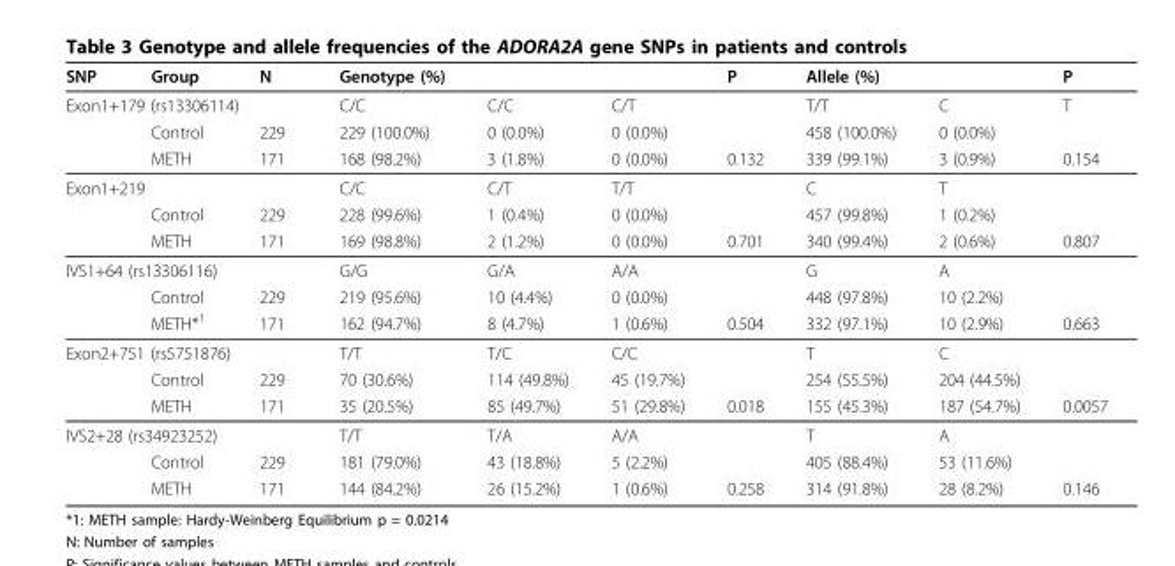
<table><thead><tr><td>SNP</td><td>Group</td><td>N</td><td>Genotype (%)</td><td></td><td></td><td>P</td><td>Allele (%)</td><td></td><td>P</td></tr></thead><tbody><tr><td colspan="3">Exon1+179 (rs13306114)</td><td>C/C</td><td>C/C</td><td>C/T</td><td></td><td>T/T</td><td>C</td><td>T</td></tr><tr><td></td><td>Control</td><td>229</td><td>229 (100.0%)</td><td>0 (0.0%)</td><td>0 (0.0%)</td><td></td><td>458 (100.0%)</td><td>0 (0.0%)</td><td></td></tr><tr><td></td><td>METH</td><td>171</td><td>168 (98.2%)</td><td>3 (1.8%)</td><td>0 (0.0%)</td><td>0.132</td><td>339 (99.1%)</td><td>3 (0.9%)</td><td>0.154</td></tr><tr><td colspan="3">Exon1+219</td><td>C/C</td><td>C/T</td><td>T/T</td><td></td><td>C</td><td>T</td><td></td></tr><tr><td></td><td>Control</td><td>229</td><td>228 (99.6%)</td><td>1 (0.4%)</td><td>0 (0.0%)</td><td></td><td>457 (99.8%)</td><td>1 (0.2%)</td><td></td></tr><tr><td></td><td>METH</td><td>171</td><td>169 (98.8%)</td><td>2 (1.2%)</td><td>0 (0.0%)</td><td>0.701</td><td>340 (99.4%)</td><td>2 (0.6%)</td><td>0.807</td></tr><tr><td colspan="3">IVS1+64 (rs13306116)</td><td>G/G</td><td>G/A</td><td>A/A</td><td></td><td>G</td><td>A</td><td></td></tr><tr><td></td><td>Control</td><td>229</td><td>219 (95.6%)</td><td>10 (4.4%)</td><td>0 (0.0%)</td><td></td><td>448 (97.8%)</td><td>10 (2.2%)</td><td></td></tr><tr><td></td><td>METH*<sup>1</sup></td><td>171</td><td>162 (94.7%)</td><td>8 (4.7%)</td><td>1 (0.6%)</td><td>0.504</td><td>332 (97.1%)</td><td>10 (2.9%)</td><td>0.663</td></tr><tr><td colspan="3">Exon2+751 (rs5751876)</td><td>T/T</td><td>T/C</td><td>C/C</td><td></td><td>T</td><td>C</td><td></td></tr><tr><td></td><td>Control</td><td>229</td><td>70 (30.6%)</td><td>114 (49.8%)</td><td>45 (19.7%)</td><td></td><td>254 (55.5%)</td><td>204 (44.5%)</td><td></td></tr><tr><td></td><td>METH</td><td>171</td><td>35 (20.5%)</td><td>85 (49.7%)</td><td>51 (29.8%)</td><td>0.018</td><td>155 (45.3%)</td><td>187 (54.7%)</td><td>0.0057</td></tr><tr><td colspan="3">IVS2+28 (rs34923252)</td><td>T/T</td><td>T/A</td><td>A/A</td><td></td><td>T</td><td>A</td><td></td></tr><tr><td></td><td>Control</td><td>229</td><td>181 (79.0%)</td><td>43 (18.8%)</td><td>5 (2.2%)</td><td></td><td>405 (88.4%)</td><td>53 (11.6%)</td><td></td></tr><tr><td></td><td>METH</td><td>171</td><td>144 (84.2%)</td><td>26 (15.2%)</td><td>1 (0.6%)</td><td>0.258</td><td>314 (91.8%)</td><td>28 (8.2%)</td><td>0.146</td></tr></tbody></table>